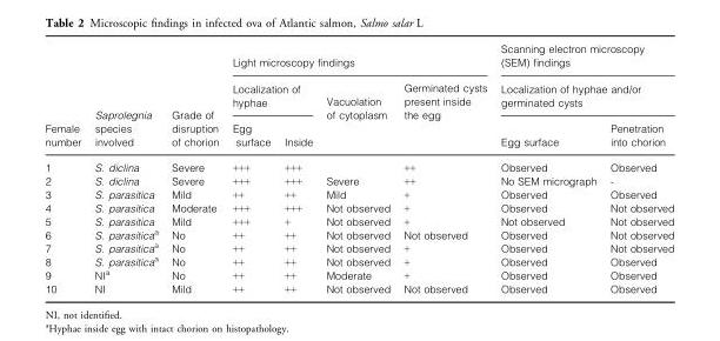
<table><thead><tr><td rowspan="3">Female number</td><td rowspan="3">Saprolegnia species involved</td><td rowspan="3">Grade of disruption of chorion</td><td colspan="4">Light microscopy findings</td><td rowspan="2" colspan="2">Scanning electron microscopy (SEM) findings Localization of hyphae and/or germinated cysts</td></tr><tr><td colspan="2">Localization of hyphae</td><td rowspan="2">Vacuolation of cytoplasm</td><td rowspan="2">Germinated cysts present inside the egg</td></tr><tr><td>Egg surface</td><td>Inside</td><td>Egg surface</td><td>Penetration into chorion</td></tr></thead><tbody><tr><td>1</td><td>S. diclina</td><td>Severe</td><td>+++</td><td>+++</td><td></td><td>++</td><td>Observed</td><td>Observed</td></tr><tr><td>2</td><td>S. diclina</td><td>Severe</td><td>+++</td><td>+++</td><td>Severe</td><td>++</td><td>No SEM micrograph</td><td>-</td></tr><tr><td>3</td><td>S. parasitica</td><td>Mild</td><td>++</td><td>++</td><td>Mild</td><td>+</td><td>Observed</td><td>Observed</td></tr><tr><td>4</td><td>S. parasitica</td><td>Moderate</td><td>+++</td><td>+++</td><td>Not observed</td><td>+</td><td>Observed</td><td>Not observed</td></tr><tr><td>5</td><td>S. parasitica</td><td>Mild</td><td>+++</td><td>+</td><td>Not observed</td><td>+</td><td>Not observed</td><td>Not observed</td></tr><tr><td>6</td><td>S. parasiticaa</td><td>No</td><td>++</td><td>++</td><td>Not observed</td><td>Not observed</td><td>Observed</td><td>Not observed</td></tr><tr><td>7</td><td>S. parasiticaa</td><td>No</td><td>++</td><td>++</td><td>Not observed</td><td>+</td><td>Observed</td><td>Not observed</td></tr><tr><td>8</td><td>S. parasiticaa</td><td>No</td><td>++</td><td>++</td><td>Not observed</td><td>+</td><td>Observed</td><td>Observed</td></tr><tr><td>9</td><td>NI<sup>a</sup></td><td>No</td><td>++</td><td>++</td><td>Moderate</td><td>+</td><td>Observed</td><td>Observed</td></tr><tr><td>10</td><td>NI</td><td>Mild</td><td>++</td><td>++</td><td>Not observed</td><td>Not observed</td><td>Observed</td><td>Observed</td></tr></tbody></table>